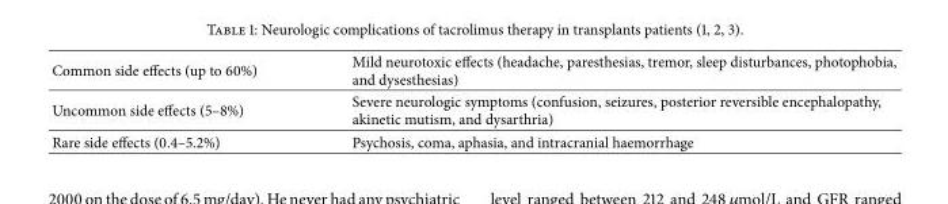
<table><tbody><tr><td>Common side effects (up to 60%)</td><td>Mild neurotoxic effects (headache, paresthesias, tremor, sleep disturbances, photophobia, and dysesthesias)</td></tr><tr><td>Uncommon side effects (5–8%)</td><td>Severe neurologic symptoms (confusion, seizures, posterior reversible encephalopathy, akinetic mutism, and dysarthria)</td></tr><tr><td>Rare side effects (0.4–5.2%)</td><td>Psychosis, coma, aphasia, and intracranial haemorrhage</td></tr></tbody></table>